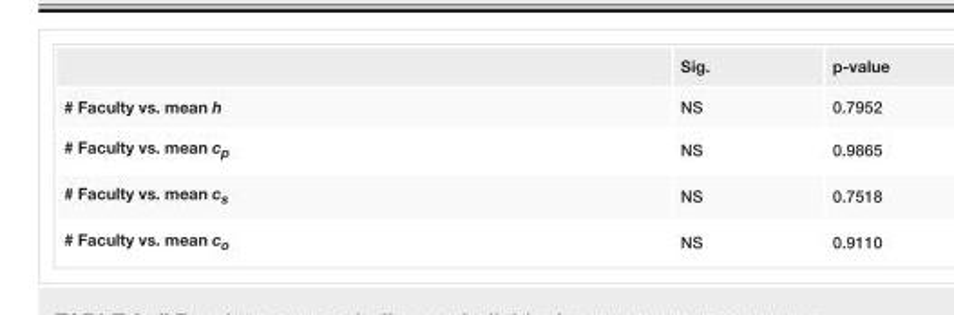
<table><thead><tr><td></td><td>Sig.</td><td>p-value</td></tr></thead><tbody><tr><td># Faculty vs. mean h</td><td>NS</td><td>0.7952</td></tr><tr><td># Faculty vs. mean c<sub>p</sub></td><td>NS</td><td>0.9865</td></tr><tr><td># Faculty vs. mean c<sub>s</sub></td><td>NS</td><td>0.7518</td></tr><tr><td># Faculty vs. mean c<sub>o</sub></td><td>NS</td><td>0.9110</td></tr></tbody></table>